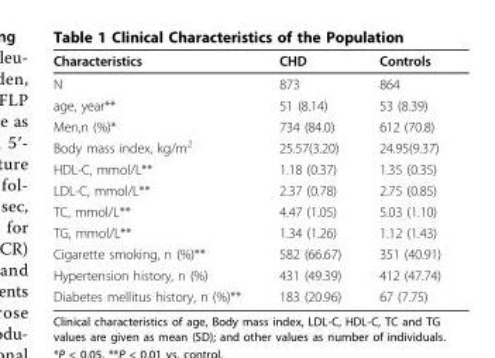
<table><thead><tr><td>Characteristics</td><td>CHD</td><td>Controls</td></tr></thead><tbody><tr><td>N</td><td>873</td><td>864</td></tr><tr><td>age, year**</td><td>51 (8.14)</td><td>53 (8.39)</td></tr><tr><td>Men,n (%)*</td><td>734 (84.0)</td><td>612 (70.8)</td></tr><tr><td>Body mass index, kg/m<sup>2</sup></td><td>25.57(3.20)</td><td>24.95(9.37)</td></tr><tr><td>HDL-C, mmol/L**</td><td>1.18 (0.37)</td><td>1.35 (0.35)</td></tr><tr><td>LDL-C, mmol/L**</td><td>2.37 (0.78)</td><td>2.75 (0.85)</td></tr><tr><td>TC, mmol/L**</td><td>4.47 (1.05)</td><td>5.03 (1.10)</td></tr><tr><td>TG, mmol/L**</td><td>1.34 (1.26)</td><td>1.12 (1.43)</td></tr><tr><td>Cigarette smoking, n (%)**</td><td>582 (66.67)</td><td>351 (40.91)</td></tr><tr><td>Hypertension history, n (%)</td><td>431 (49.39)</td><td>412 (47.74)</td></tr><tr><td>Diabetes mellitus history, n (%)**</td><td>183 (20.96)</td><td>67 (7.75)</td></tr></tbody></table>